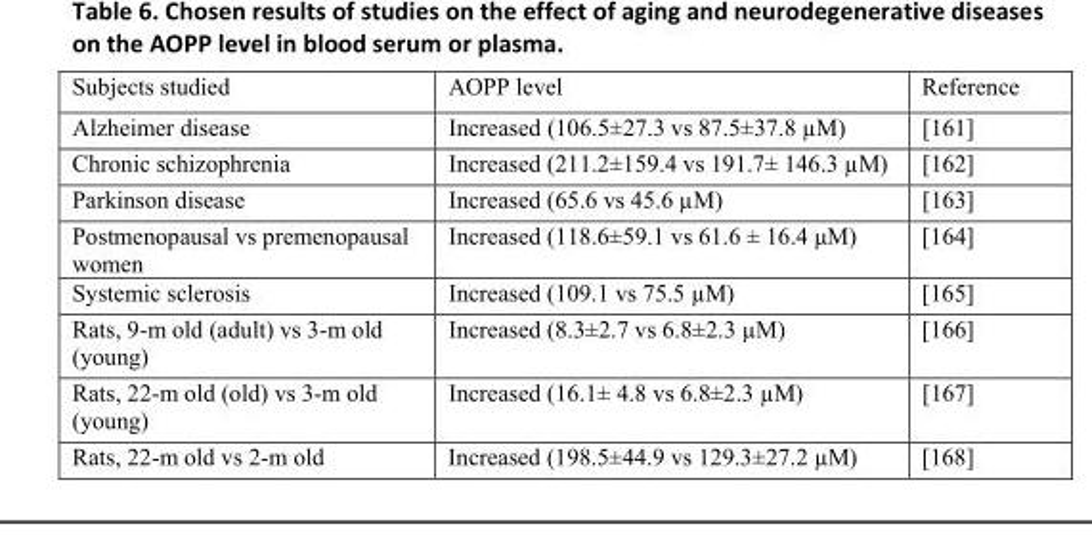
<table><tbody><tr><td>Subjects studied</td><td>AOPP level</td><td>Reference</td></tr><tr><td>Alzheimer disease</td><td>Increased (106.5±27.3 vs 87.5±37.8 µM)</td><td>[161]</td></tr><tr><td>Chronic schizophrenia</td><td>Increased (211.2±159.4 vs 191.7± 146.3 µM)</td><td>[162]</td></tr><tr><td>Parkinson disease</td><td>Increased (65.6 vs 45.6 µM)</td><td>[163]</td></tr><tr><td>Postmenopausal vs premenopausal women</td><td>Increased (118.6±59.1 vs 61.6 ± 16.4 μM)</td><td>[164]</td></tr><tr><td>Systemic sclerosis</td><td>Increased (109.1 vs 75.5 µM)</td><td>[165]</td></tr><tr><td>Rats, 9-m old (adult) vs 3-m old (young)</td><td>Increased (8.3±2.7 vs 6.8±2.3 µM)</td><td>[166]</td></tr><tr><td>Rats, 22-m old (old) vs 3-m old (young)</td><td>Increased (16.1± 4.8 vs 6.8±2.3 µM)</td><td>[167]</td></tr><tr><td>Rats, 22-m old vs 2-m old</td><td>Increased (198.5±44.9 vs 129.3±27.2 µM)</td><td>[168]</td></tr></tbody></table>